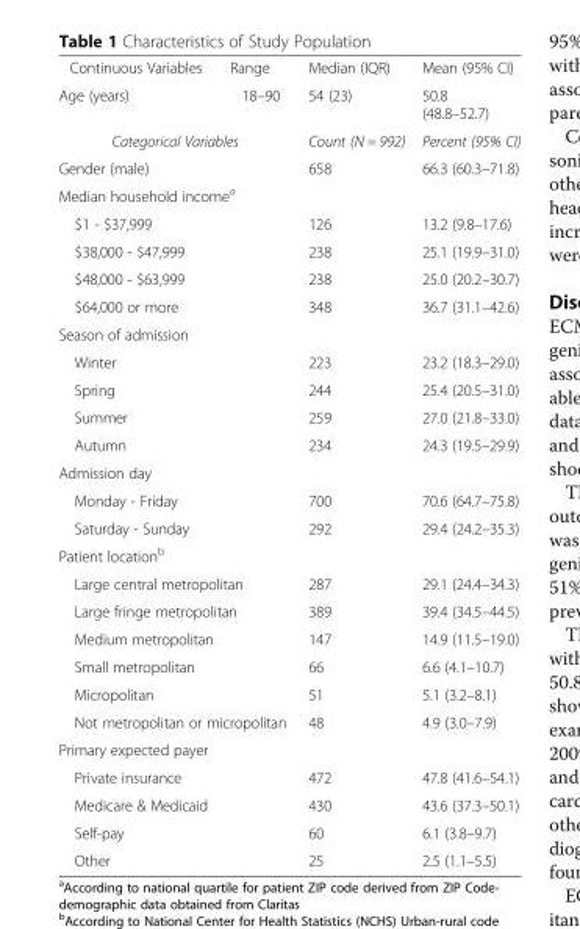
<table><tbody><tr><td>Continuous Variables</td><td>Range</td><td>Median (IQR)</td><td>Mean (95% CI)</td></tr><tr><td>Age (years)</td><td>18–90</td><td>54 (23)</td><td>50.8 (48.8–52.7)</td></tr><tr><td colspan="2">Categorical Variables</td><td>Count (N = 992)</td><td>Percent (95% CI)</td></tr><tr><td colspan="2">Gender (male)</td><td>658</td><td>66.3 (60.3–71.8)</td></tr><tr><td colspan="4">Median household income<sup>a</sup></td></tr><tr><td colspan="2">$1 - $37,999</td><td>126</td><td>13.2 (9.8–17.6)</td></tr><tr><td colspan="2">$38,000 - $47,999</td><td>238</td><td>25.1 (19.9–31.0)</td></tr><tr><td colspan="2">$48,000 - $63,999</td><td>238</td><td>25.0 (20.2–30.7)</td></tr><tr><td colspan="2">$64,000 or more</td><td>348</td><td>36.7 (31.1–42.6)</td></tr><tr><td colspan="4">Season of admission</td></tr><tr><td colspan="2">Winter</td><td>223</td><td>23.2 (18.3–29.0)</td></tr><tr><td colspan="2">Spring</td><td>244</td><td>25.4 (20.5–31.0)</td></tr><tr><td colspan="2">Summer</td><td>259</td><td>27.0 (21.8–33.0)</td></tr><tr><td colspan="2">Autumn</td><td>234</td><td>24.3 (19.5–29.9)</td></tr><tr><td colspan="4">Admission day</td></tr><tr><td colspan="2">Monday - Friday</td><td>700</td><td>70.6 (64.7–75.8)</td></tr><tr><td colspan="2">Saturday - Sunday</td><td>292</td><td>29.4 (24.2–35.3)</td></tr><tr><td colspan="4">Patient location<sup>b</sup></td></tr><tr><td colspan="2">Large central metropolitan</td><td>287</td><td>29.1 (24.4–34.3)</td></tr><tr><td colspan="2">Large fringe metropolitan</td><td>389</td><td>39.4 (34.5–44.5)</td></tr><tr><td colspan="2">Medium metropolitan</td><td>147</td><td>14.9 (11.5–19.0)</td></tr><tr><td colspan="2">Small metropolitan</td><td>66</td><td>6.6 (4.1–10.7)</td></tr><tr><td colspan="2">Micropolitan</td><td>51</td><td>5.1 (3.2–8.1)</td></tr><tr><td colspan="2">Not metropolitan or micropolitan</td><td>48</td><td>4.9 (3.0–7.9)</td></tr><tr><td colspan="4">Primary expected payer</td></tr><tr><td colspan="2">Private insurance</td><td>472</td><td>47.8 (41.6–54.1)</td></tr><tr><td colspan="2">Medicare &amp; Medicaid</td><td>430</td><td>43.6 (37.3–50.1)</td></tr><tr><td colspan="2">Self-pay</td><td>60</td><td>6.1 (3.8–9.7)</td></tr><tr><td colspan="2">Other</td><td>25</td><td>2.5 (1.1–5.5)</td></tr></tbody></table>